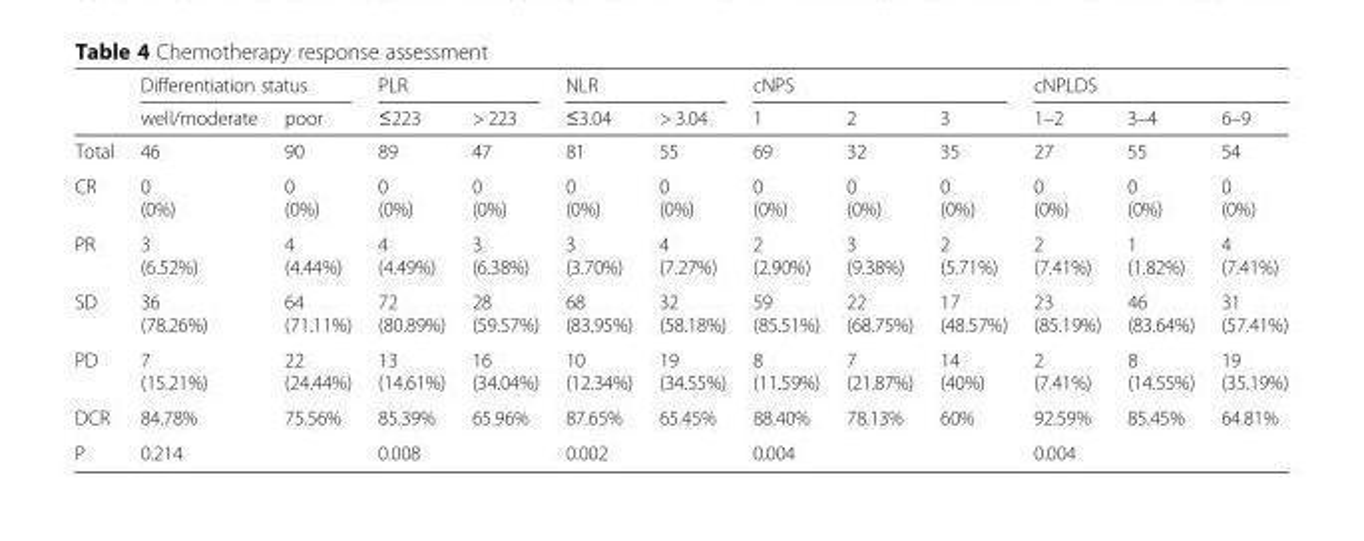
<table><thead><tr><td rowspan="2"></td><td colspan="2">Differentiation status</td><td colspan="2">PLR</td><td colspan="2">NLR</td><td colspan="3">cNPS</td><td colspan="3">cNPLDS</td></tr><tr><td>well/moderate</td><td>poor</td><td>≤223</td><td>&gt; 223</td><td>≤3.04</td><td>&gt; 3.04</td><td>1</td><td>2</td><td>3</td><td>1–2</td><td>3–4</td><td>6–9</td></tr></thead><tbody><tr><td>Total</td><td>46</td><td>90</td><td>89</td><td>47</td><td>81</td><td>55</td><td>69</td><td>32</td><td>35</td><td>27</td><td>55</td><td>54</td></tr><tr><td>CR</td><td>0 (0%)</td><td>0 (0%)</td><td>0 (0%)</td><td>0 (0%)</td><td>0 (0%)</td><td>0 (0%)</td><td>0 (0%)</td><td>0 (0%)</td><td>0 (0%)</td><td>0 (0%)</td><td>0 (0%)</td><td>0 (0%)</td></tr><tr><td>PR</td><td>3 (6.52%)</td><td>4 (4.44%)</td><td>4 (4.49%)</td><td>3 (6.38%)</td><td>3 (3.70%)</td><td>4 (7.27%)</td><td>2 (2.90%)</td><td>3 (9.38%)</td><td>2 (5.71%)</td><td>2 (7.41%)</td><td>1 (1.82%)</td><td>4 (7.41%)</td></tr><tr><td>SD</td><td>36 (78.26%)</td><td>64 (71.11%)</td><td>72 (80.89%)</td><td>28 (59.57%)</td><td>68 (83.95%)</td><td>32 (58.18%)</td><td>59 (85.51%)</td><td>22 (68.75%)</td><td>17 (48.57%)</td><td>23 (85.19%)</td><td>46 (83.64%)</td><td>31 (57.41%)</td></tr><tr><td>PD</td><td>7 (15.21%)</td><td>22 (24.44%)</td><td>13 (14.61%)</td><td>16 (34.04%)</td><td>10 (12.34%)</td><td>19 (34.55%)</td><td>8 (11.59%)</td><td>7 (21.87%)</td><td>14 (40%)</td><td>2 (7.41%)</td><td>8 (14.55%)</td><td>19 (35.19%)</td></tr><tr><td>DCR</td><td>84.78%</td><td>75.56%</td><td>85.39%</td><td>65.96%</td><td>87.65%</td><td>65.45%</td><td>88.40%</td><td>78.13%</td><td>60%</td><td>92.59%</td><td>85.45%</td><td>64.81%</td></tr><tr><td>P</td><td colspan="2">0.214</td><td colspan="2">0.008</td><td colspan="2">0.002</td><td colspan="3">0.004</td><td colspan="3">0.004</td></tr></tbody></table>